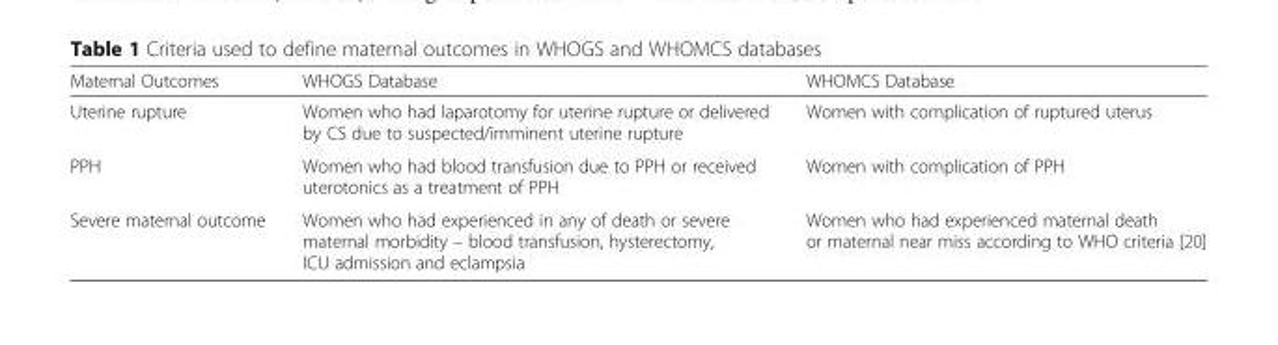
<table><thead><tr><td>Maternal Outcomes</td><td>WHOGS Database</td><td>WHOMCS Database</td></tr></thead><tbody><tr><td>Uterine rupture</td><td>Women who had laparotomy for uterine rupture or delivered by CS due to suspected/imminent uterine rupture</td><td>Women with complication of ruptured uterus</td></tr><tr><td>PPH</td><td>Women who had blood transfusion due to PPH or received uterotonics as a treatment of PPH</td><td>Women with complication of PPH</td></tr><tr><td>Severe maternal outcome</td><td>Women who had experienced in any of death or severe maternal morbidity – blood transfusion, hysterectomy, ICU admission and eclampsia</td><td>Women who had experienced maternal death or maternal near miss according to WHO criteria [20]</td></tr></tbody></table>